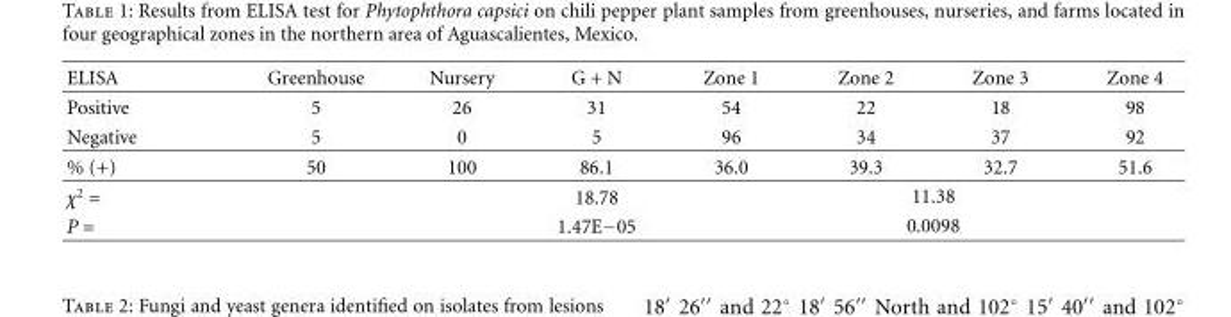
<table><thead><tr><td>ELISA</td><td>Greenhouse</td><td>Nursery</td><td>G + N</td><td>Zone 1</td><td>Zone 2</td><td>Zone 3</td><td>Zone 4</td></tr></thead><tbody><tr><td>Positive</td><td>5</td><td>26</td><td>31</td><td>54</td><td>22</td><td>18</td><td>98</td></tr><tr><td>Negative</td><td>5</td><td>0</td><td>5</td><td>96</td><td>34</td><td>37</td><td>92</td></tr><tr><td>% (+)</td><td>50</td><td>100</td><td>86.1</td><td>36.0</td><td>39.3</td><td>32.7</td><td>51.6</td></tr><tr><td>χ<sup>2</sup> =</td><td></td><td></td><td>18.78</td><td colspan="4">11.38</td></tr><tr><td>P =</td><td></td><td></td><td>1.47E−05</td><td colspan="4">0.0098</td></tr></tbody></table>